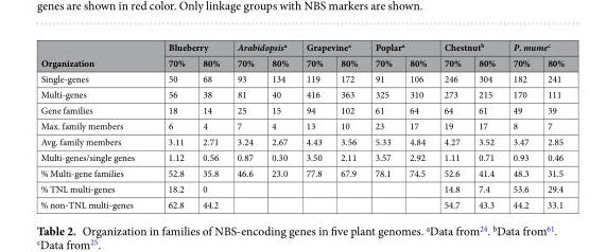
<table><thead><tr><td rowspan="2">Organization</td><td colspan="2">Blueberry</td><td colspan="2">Arabidopsis<sup>a</sup></td><td colspan="2">Grapevine<sup>a</sup></td><td colspan="2">Poplar<sup>a</sup></td><td colspan="2">Chestnut<sup>b</sup></td><td colspan="2">P. mume<sup>c</sup></td></tr><tr><td>70%</td><td>80%</td><td>70%</td><td>80%</td><td>70%</td><td>80%</td><td>70%</td><td>80%</td><td>70%</td><td>80%</td><td>70%</td><td>80%</td></tr></thead><tbody><tr><td>Single-genes</td><td>50</td><td>68</td><td>93</td><td>134</td><td>119</td><td>172</td><td>91</td><td>106</td><td>246</td><td>304</td><td>182</td><td>241</td></tr><tr><td>Multi-genes</td><td>56</td><td>38</td><td>81</td><td>40</td><td>416</td><td>363</td><td>325</td><td>310</td><td>273</td><td>215</td><td>170</td><td>111</td></tr><tr><td>Gene families</td><td>18</td><td>14</td><td>25</td><td>15</td><td>94</td><td>102</td><td>61</td><td>64</td><td>64</td><td>61</td><td>49</td><td>39</td></tr><tr><td>Max. family members</td><td>6</td><td>4</td><td>7</td><td>4</td><td>13</td><td>10</td><td>23</td><td>17</td><td>19</td><td>17</td><td>8</td><td>7</td></tr><tr><td>Avg. family members</td><td>3.11</td><td>2.71</td><td>3.24</td><td>2.67</td><td>4.43</td><td>3.56</td><td>5.33</td><td>4.84</td><td>4.27</td><td>3.52</td><td>3.47</td><td>2.85</td></tr><tr><td>Multi-genes/single genes</td><td>1.12</td><td>0.56</td><td>0.87</td><td>0.30</td><td>3.50</td><td>2.11</td><td>3.57</td><td>2.92</td><td>1.11</td><td>0.71</td><td>0.93</td><td>0.46</td></tr><tr><td>% Multi-gene families</td><td>52.8</td><td>35.8</td><td>46.6</td><td>23.0</td><td>77.8</td><td>67.9</td><td>78.1</td><td>74.5</td><td>52.6</td><td>41.4</td><td>48.3</td><td>31.5</td></tr><tr><td>% TNL multi-genes</td><td>18.2</td><td>0</td><td></td><td></td><td></td><td></td><td></td><td></td><td>14.8</td><td>7.4</td><td>53.6</td><td>29.4</td></tr><tr><td>% non-TNL multi-genes</td><td>62.8</td><td>44.2</td><td></td><td></td><td></td><td></td><td></td><td></td><td>54.7</td><td>43.3</td><td>44.2</td><td>33.1</td></tr></tbody></table>